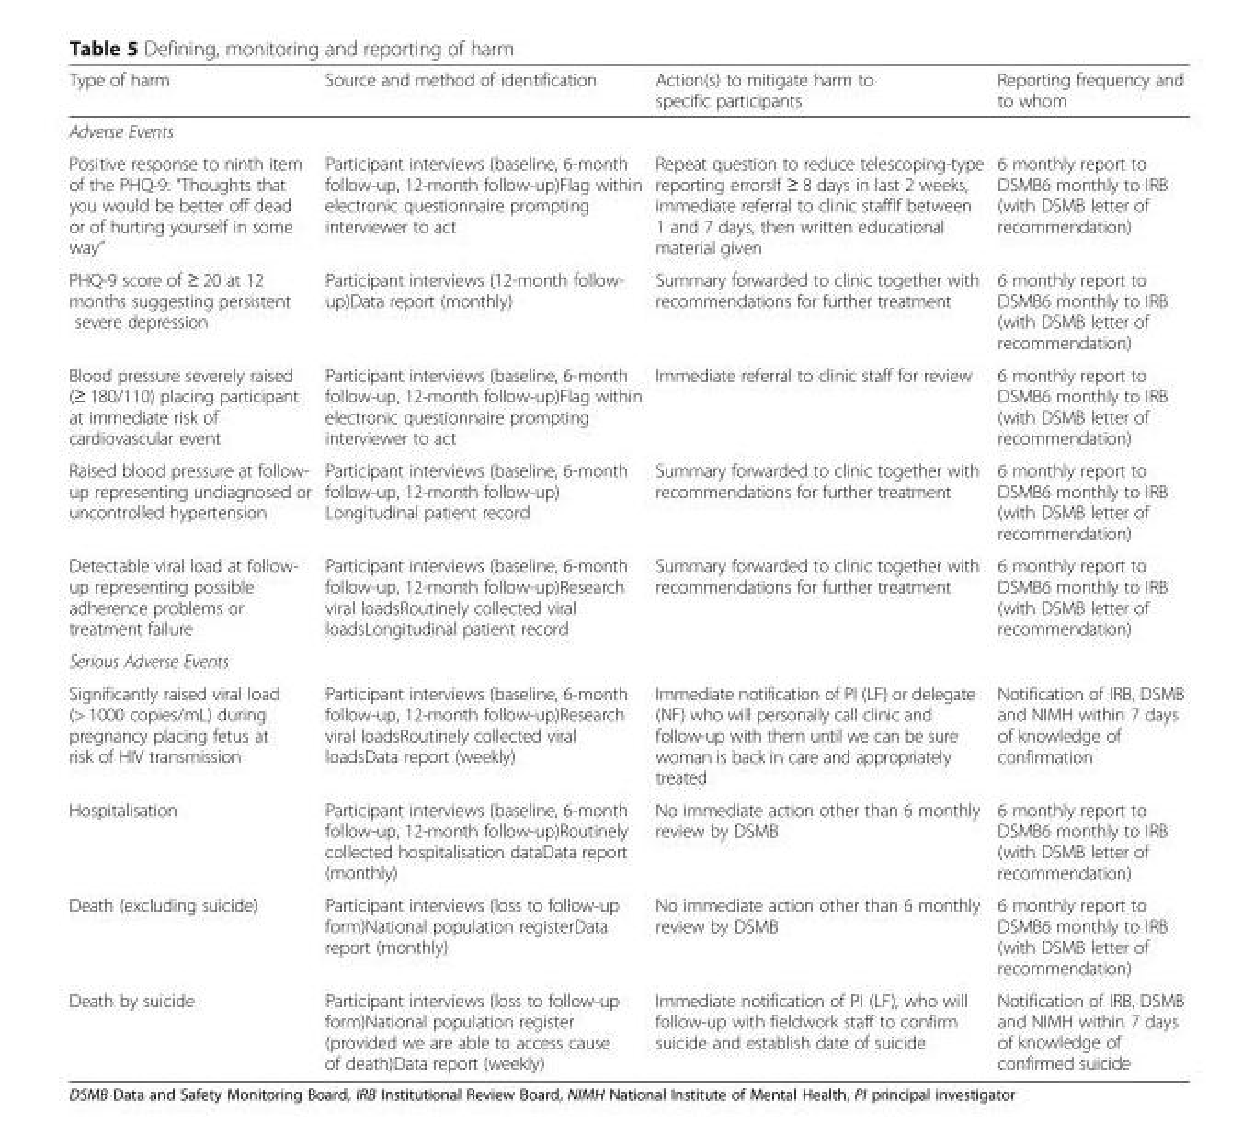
<table><thead><tr><td>Type of harm</td><td>Source and method of identification</td><td>Action(s) to mitigate harm to specific participants</td><td>Reporting frequency and to whom</td></tr></thead><tbody><tr><td colspan="4">Adverse Events</td></tr><tr><td>Positive response to ninth item of the PHQ-9: “Thoughts that you would be better off dead or of hurting yourself in some way”</td><td>Participant interviews (baseline, 6-month follow-up, 12-month follow-up)Flag within electronic questionnaire prompting interviewer to act</td><td>Repeat question to reduce telescoping-type reporting errorsIf ≥ 8 days in last 2 weeks, immediate referral to clinic staffIf between 1 and 7 days, then written educational material given</td><td>6 monthly report to DSMB6 monthly to IRB (with DSMB letter of recommendation)</td></tr><tr><td>PHQ-9 score of ≥ 20 at 12 months suggesting persistent severe depression</td><td>Participant interviews (12-month follow- up)Data report (monthly)</td><td>Summary forwarded to clinic together with recommendations for further treatment</td><td>6 monthly report to DSMB6 monthly to IRB (with DSMB letter of recommendation)</td></tr><tr><td>Blood pressure severely raised (≥ 180/110) placing participant at immediate risk of cardiovascular event</td><td>Participant interviews (baseline, 6-month follow-up, 12-month follow-up)Flag within electronic questionnaire prompting interviewer to act</td><td>Immediate referral to clinic staff for review</td><td>6 monthly report to DSMB6 monthly to IRB (with DSMB letter of recommendation)</td></tr><tr><td>Raised blood pressure at follow- up representing undiagnosed or uncontrolled hypertension</td><td>Participant interviews (baseline, 6-month follow-up, 12-month follow-up) Longitudinal patient record</td><td>Summary forwarded to clinic together with recommendations for further treatment</td><td>6 monthly report to DSMB6 monthly to IRB (with DSMB letter of recommendation)</td></tr><tr><td>Detectable viral load at follow- up representing possible adherence problems or treatment failure</td><td>Participant interviews (baseline, 6-month follow-up, 12-month follow-up)Research viral loadsRoutinely collected viral loadsLongitudinal patient record</td><td>Summary forwarded to clinic together with recommendations for further treatment</td><td>6 monthly report to DSMB6 monthly to IRB (with DSMB letter of recommendation)</td></tr><tr><td colspan="4">Serious Adverse Events</td></tr><tr><td>Significantly raised viral load (&gt; 1000 copies/mL) during pregnancy placing fetus at risk of HIV transmission</td><td>Participant interviews (baseline, 6-month follow-up, 12-month follow-up)Research viral loadsRoutinely collected viral loadsData report (weekly)</td><td>Immediate notification of PI (LF) or delegate (NF) who will personally call clinic and follow-up with them until we can be sure woman is back in care and appropriately treated</td><td>Notification of IRB, DSMB and NIMH within 7 days of knowledge of confirmation</td></tr><tr><td>Hospitalisation</td><td>Participant interviews (baseline, 6-month follow-up, 12-month follow-up)Routinely collected hospitalisation dataData report (monthly)</td><td>No immediate action other than 6 monthly review by DSMB</td><td>6 monthly report to DSMB6 monthly to IRB (with DSMB letter of recommendation)</td></tr><tr><td>Death (excluding suicide)</td><td>Participant interviews (loss to follow-up form)National population registerData report (monthly)</td><td>No immediate action other than 6 monthly review by DSMB</td><td>6 monthly report to DSMB6 monthly to IRB (with DSMB letter of recommendation)</td></tr><tr><td>Death by suicide</td><td>Participant interviews (loss to follow-up form)National population register (provided we are able to access cause of death)Data report (weekly)</td><td>Immediate notification of PI (LF), who will follow-up with fieldwork staff to confirm suicide and establish date of suicide</td><td>Notification of IRB, DSMB and NIMH within 7 days of knowledge of confirmed suicide</td></tr></tbody></table>